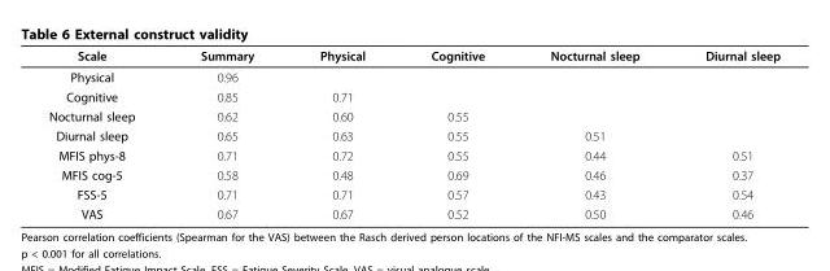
<table><thead><tr><td>Scale</td><td>Summary</td><td>Physical</td><td>Cognitive</td><td>Nocturnal sleep</td><td>Diurnal sleep</td></tr></thead><tbody><tr><td>Physical</td><td>0.96</td><td></td><td></td><td></td><td></td></tr><tr><td>Cognitive</td><td>0.85</td><td>0.71</td><td></td><td></td><td></td></tr><tr><td>Nocturnal sleep</td><td>0.62</td><td>0.60</td><td>0.55</td><td></td><td></td></tr><tr><td>Diurnal sleep</td><td>0.65</td><td>0.63</td><td>0.55</td><td>0.51</td><td></td></tr><tr><td>MFIS phys-8</td><td>0.71</td><td>0.72</td><td>0.55</td><td>0.44</td><td>0.51</td></tr><tr><td>MFIS cog-5</td><td>0.58</td><td>0.48</td><td>0.69</td><td>0.46</td><td>0.37</td></tr><tr><td>FSS-5</td><td>0.71</td><td>0.71</td><td>0.57</td><td>0.43</td><td>0.54</td></tr><tr><td>VAS</td><td>0.67</td><td>0.67</td><td>0.52</td><td>0.50</td><td>0.46</td></tr></tbody></table>